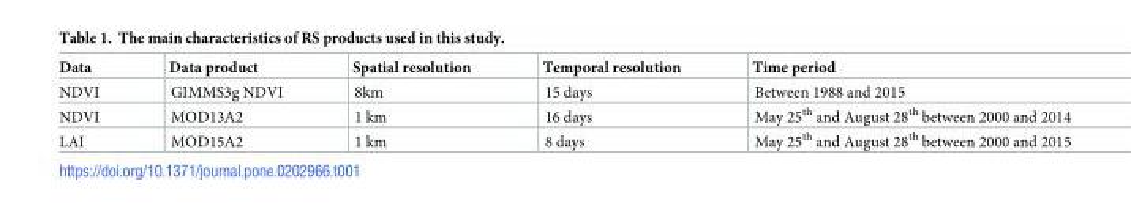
<table><thead><tr><td>Data</td><td>Data product</td><td>Spatial resolution</td><td>Temporal resolution</td><td>Time period</td></tr></thead><tbody><tr><td>NDVI</td><td>GIMMS3g NDVI</td><td>8km</td><td>15 days</td><td>Between 1988 and 2015</td></tr><tr><td>NDVI</td><td>MOD13A2</td><td>1 km</td><td>16 days</td><td>May 25<sup>th</sup> and August 28<sup>th</sup> between 2000 and 2014</td></tr><tr><td>LAI</td><td>MOD15A2</td><td>1 km</td><td>8 days</td><td>May 25<sup>th</sup> and August 28<sup>th</sup> between 2000 and 2015</td></tr></tbody></table>